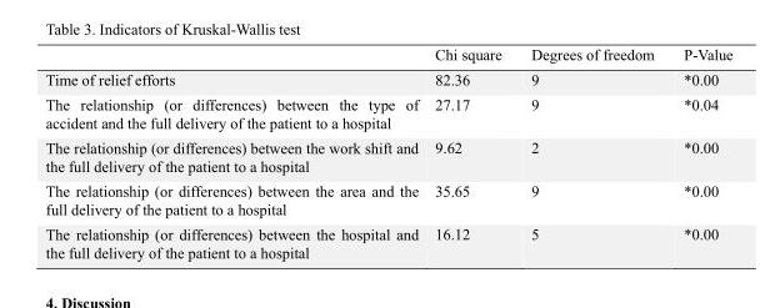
<table><thead><tr><td></td><td>Chi square</td><td>Degrees of freedom</td><td>P-Value</td></tr></thead><tbody><tr><td>Time of relief efforts</td><td>82.36</td><td>9</td><td>*0.00</td></tr><tr><td>The relationship (or differences) between the type of accident and the full delivery of the patient to a hospital</td><td>27.17</td><td>9</td><td>*0.04</td></tr><tr><td>The relationship (or differences) between the work shift and the full delivery of the patient to a hospital</td><td>9.62</td><td>2</td><td>*0.00</td></tr><tr><td>The relationship (or differences) between the area and the full delivery of the patient to a hospital</td><td>35.65</td><td>9</td><td>*0.00</td></tr><tr><td>The relationship (or differences) between the hospital and the full delivery of the patient to a hospital</td><td>16.12</td><td>5</td><td>*0.00</td></tr></tbody></table>